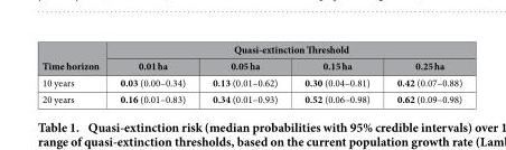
<table><thead><tr><td rowspan="2">Time horizon</td><td colspan="4">Quasi-extinction Threshold</td></tr><tr><td>0.01 ha</td><td>0.05 ha</td><td>0.15 ha</td><td>0.25 ha</td></tr></thead><tbody><tr><td>10 years</td><td>0.03 (0.00–0.34)</td><td>0.13 (0.01–0.62)</td><td>0.30 (0.04–0.81)</td><td>0.42 (0.07–0.88)</td></tr><tr><td>20 years</td><td>0.16 (0.01–0.83)</td><td>0.34 (0.01–0.93)</td><td>0.52 (0.06–0.98)</td><td>0.62 (0.09–0.98)</td></tr></tbody></table>